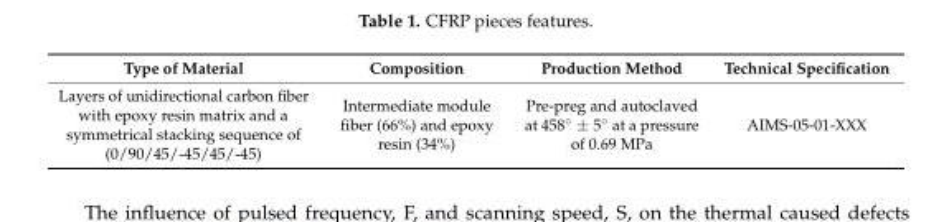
<table><thead><tr><td>Type of Material</td><td>Composition</td><td>Production Method</td><td>Technical Specification</td></tr></thead><tbody><tr><td>Layers of unidirectional carbon fiber with epoxy resin matrix and a symmetrical stacking sequence of (0/90/45/-45/45/-45)</td><td>Intermediate module fiber (66%) and epoxy resin (34%)</td><td>Pre-preg and autoclaved at 458◦ ± 5◦ at a pressure of 0.69 MPa</td><td>AIMS-05-01-XXX</td></tr></tbody></table>